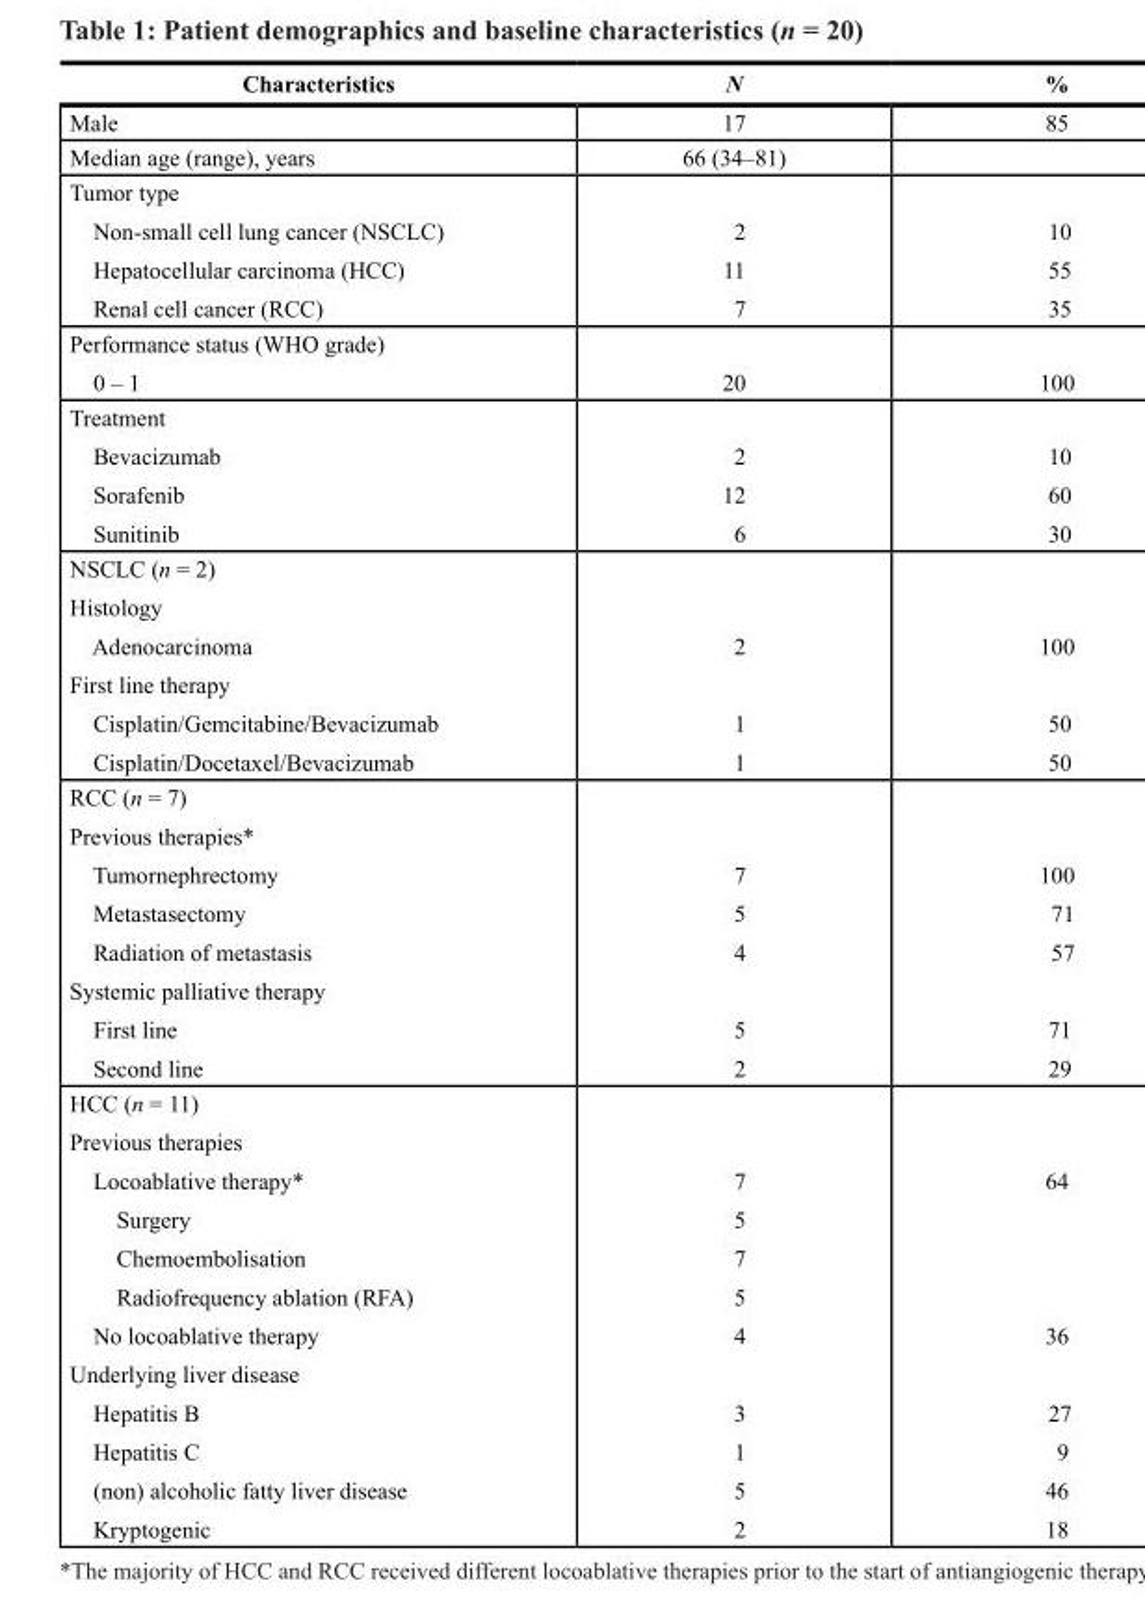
<table><thead><tr><td>Characteristics</td><td>N</td><td>%</td></tr></thead><tbody><tr><td>Male</td><td>17</td><td>85</td></tr><tr><td>Median age (range), years</td><td>66 (34–81)</td><td></td></tr><tr><td colspan="3">Tumor type</td></tr><tr><td>Non-small cell lung cancer (NSCLC)</td><td>2</td><td>10</td></tr><tr><td>Hepatocellular carcinoma (HCC)</td><td>11</td><td>55</td></tr><tr><td>Renal cell cancer (RCC)</td><td>7</td><td>35</td></tr><tr><td colspan="3">Performance status (WHO grade)</td></tr><tr><td>0 – 1</td><td>20</td><td>100</td></tr><tr><td colspan="3">Treatment</td></tr><tr><td>Bevacizumab</td><td>2</td><td>10</td></tr><tr><td>Sorafenib</td><td>12</td><td>60</td></tr><tr><td>Sunitinib</td><td>6</td><td>30</td></tr><tr><td colspan="3">NSCLC (n = 2)</td></tr><tr><td colspan="3">Histology</td></tr><tr><td>Adenocarcinoma</td><td>2</td><td>100</td></tr><tr><td colspan="3">First line therapy</td></tr><tr><td>Cisplatin/Gemcitabine/Bevacizumab</td><td>1</td><td>50</td></tr><tr><td>Cisplatin/Docetaxel/Bevacizumab</td><td>1</td><td>50</td></tr><tr><td colspan="3">RCC (n = 7)</td></tr><tr><td colspan="3">Previous therapies*</td></tr><tr><td>Tumornephrectomy</td><td>7</td><td>100</td></tr><tr><td>Metastasectomy</td><td>5</td><td>71</td></tr><tr><td>Radiation of metastasis</td><td>4</td><td>57</td></tr><tr><td colspan="3">Systemic palliative therapy</td></tr><tr><td>First line</td><td>5</td><td>71</td></tr><tr><td>Second line</td><td>2</td><td>29</td></tr><tr><td colspan="3">HCC (n = 11)</td></tr><tr><td colspan="3">Previous therapies</td></tr><tr><td>Locoablative therapy*</td><td>7</td><td>64</td></tr><tr><td>Surgery</td><td>5</td><td></td></tr><tr><td>Chemoembolisation</td><td>7</td><td></td></tr><tr><td>Radiofrequency ablation (RFA)</td><td>5</td><td></td></tr><tr><td>No locoablative therapy</td><td>4</td><td>36</td></tr><tr><td colspan="3">Underlying liver disease</td></tr><tr><td>Hepatitis B</td><td>3</td><td>27</td></tr><tr><td>Hepatitis C</td><td>1</td><td>9</td></tr><tr><td>(non) alcoholic fatty liver disease</td><td>5</td><td>46</td></tr><tr><td>Kryptogenic</td><td>2</td><td>18</td></tr></tbody></table>